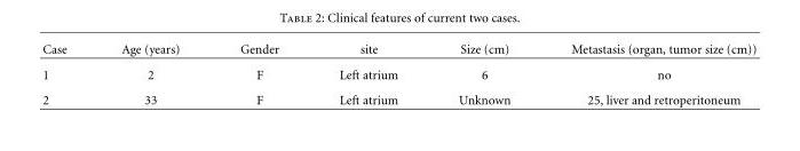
<table><thead><tr><td>Case</td><td>Age (years)</td><td>Gender</td><td>site</td><td>Size (cm)</td><td>Metastasis (organ, tumor size (cm))</td></tr></thead><tbody><tr><td>1</td><td>2</td><td>F</td><td>Left atrium</td><td>6</td><td>no</td></tr><tr><td>2</td><td>33</td><td>F</td><td>Left atrium</td><td>Unknown</td><td>25, liver and retroperitoneum</td></tr></tbody></table>